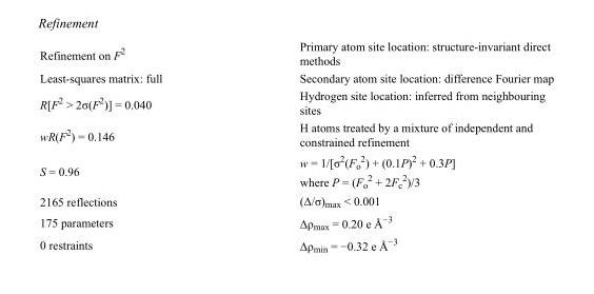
<table><tbody><tr><td>Refinement on F<sup>2</sup></td><td>Primary atom site location: structure-invariant direct methods</td></tr><tr><td>Least-squares matrix: full</td><td>Secondary atom site location: difference Fourier map</td></tr><tr><td>R[F<sup>2</sup> &gt; 2σ(F<sup>2</sup>)] = 0.040</td><td>Hydrogen site location: inferred from neighbouring sites</td></tr><tr><td>wR(F<sup>2</sup>) = 0.146</td><td>H atoms treated by a mixture of independent and constrained refinement</td></tr><tr><td>S = 0.96</td><td>w = 1/[σ<sup>2</sup>(F<sub>o</sub> <sup>2</sup>) + (0.1P)<sup>2</sup> + 0.3P] where P = (F<sub>o</sub> <sup>2</sup> + 2F<sub>c</sub> <sup>2</sup>)/3</td></tr><tr><td>2165 reflections</td><td>(Δ/σ)<sub>max</sub> &lt; 0.001</td></tr><tr><td>175 parameters</td><td>Δρ<sub>max</sub> = 0.20 e Å<sup>−3</sup></td></tr><tr><td>0 restraints</td><td>Δρ<sub>min</sub> = −0.32 e Å<sup>−3</sup></td></tr></tbody></table>